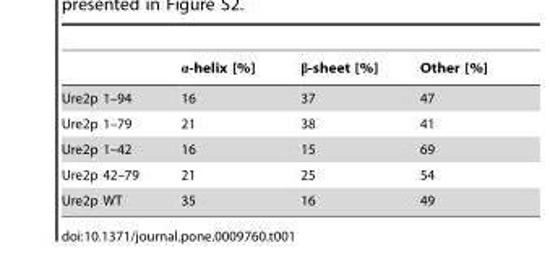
<table><thead><tr><td></td><td>α-helix [%]</td><td>β-sheet [%]</td><td>Other [%]</td></tr></thead><tbody><tr><td>Ure2p 1–94</td><td>16</td><td>37</td><td>47</td></tr><tr><td>Ure2p 1–79</td><td>21</td><td>38</td><td>41</td></tr><tr><td>Ure2p 1–42</td><td>16</td><td>15</td><td>69</td></tr><tr><td>Ure2p 42–79</td><td>21</td><td>25</td><td>54</td></tr><tr><td>Ure2p WT</td><td>35</td><td>16</td><td>49</td></tr></tbody></table>